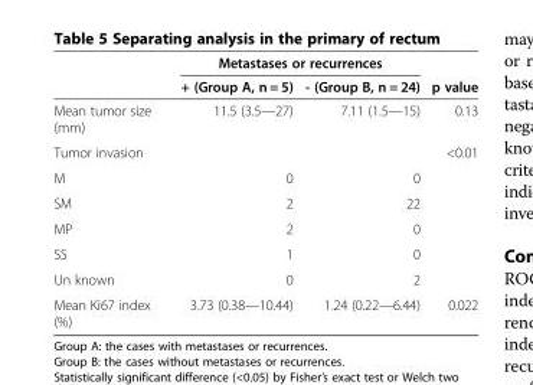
<table><thead><tr><td rowspan="2"></td><td colspan="2">Metastases or recurrences</td><td rowspan="2">p value</td></tr><tr><td>+ (Group A, n = 5)</td><td>- (Group B, n = 24)</td></tr></thead><tbody><tr><td>Mean tumor size (mm)</td><td>11.5 (3.5—27)</td><td>7.11 (1.5—15)</td><td>0.13</td></tr><tr><td>Tumor invasion</td><td></td><td></td><td>&lt;0.01</td></tr><tr><td>M</td><td>0</td><td>0</td><td></td></tr><tr><td>SM</td><td>2</td><td>22</td><td></td></tr><tr><td>MP</td><td>2</td><td>0</td><td></td></tr><tr><td>SS</td><td>1</td><td>0</td><td></td></tr><tr><td>Un known</td><td>0</td><td>2</td><td></td></tr><tr><td>Mean Ki67 index (%)</td><td>3.73 (0.38—10.44)</td><td>1.24 (0.22—6.44)</td><td>0.022</td></tr></tbody></table>